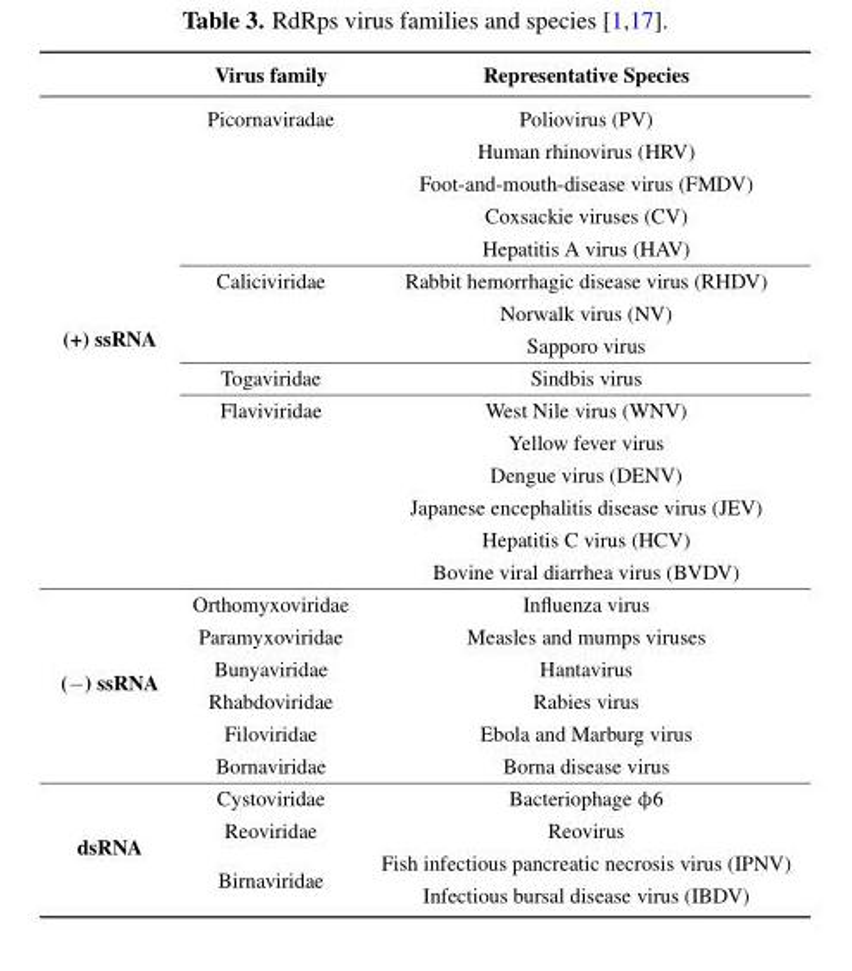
<table><thead><tr><td></td><td>Virus family</td><td>Representative Species</td></tr></thead><tbody><tr><td rowspan="15">(+) ssRNA</td><td>Picornaviradae</td><td>Poliovirus (PV)</td></tr><tr><td></td><td>Human rhinovirus (HRV)</td></tr><tr><td></td><td>Foot-and-mouth-disease virus (FMDV)</td></tr><tr><td></td><td>Coxsackie viruses (CV)</td></tr><tr><td></td><td>Hepatitis A virus (HAV)</td></tr><tr><td>Caliciviridae</td><td>Rabbit hemorrhagic disease virus (RHDV)</td></tr><tr><td></td><td>Norwalk virus (NV)</td></tr><tr><td></td><td>Sapporo virus</td></tr><tr><td>Togaviridae</td><td>Sindbis virus</td></tr><tr><td>Flaviviridae</td><td>West Nile virus (WNV)</td></tr><tr><td></td><td>Yellow fever virus</td></tr><tr><td></td><td>Dengue virus (DENV)</td></tr><tr><td></td><td>Japanese encephalitis disease virus (JEV)</td></tr><tr><td></td><td>Hepatitis C virus (HCV)</td></tr><tr><td></td><td>Bovine viral diarrhea virus (BVDV)</td></tr><tr><td rowspan="6">(−) ssRNA</td><td>Orthomyxoviridae</td><td>Influenza virus</td></tr><tr><td>Paramyxoviridae</td><td>Measles and mumps viruses</td></tr><tr><td>Bunyaviridae</td><td>Hantavirus</td></tr><tr><td>Rhabdoviridae</td><td>Rabies virus</td></tr><tr><td>Filoviridae</td><td>Ebola and Marburg virus</td></tr><tr><td>Bornaviridae</td><td>Borna disease virus</td></tr><tr><td rowspan="4">dsRNA</td><td>Cystoviridae</td><td>Bacteriophage φ6</td></tr><tr><td>Reoviridae</td><td>Reovirus</td></tr><tr><td rowspan="2">Birnaviridae</td><td>Fish infectious pancreatic necrosis virus (IPNV)</td></tr><tr><td>Infectious bursal disease virus (IBDV)</td></tr></tbody></table>